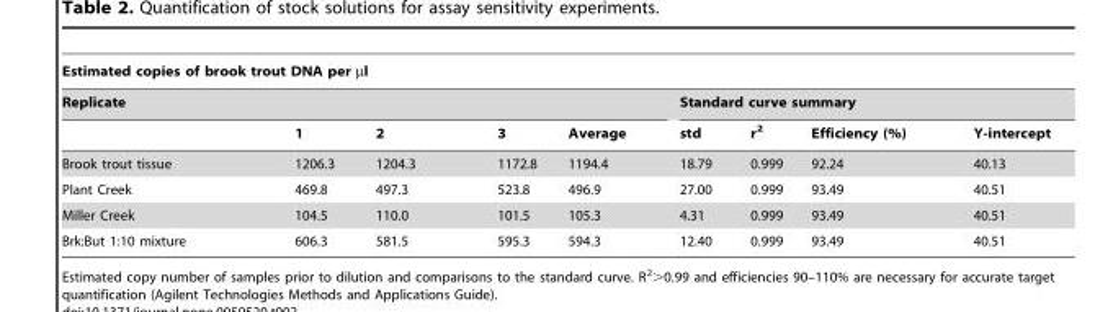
<table><thead><tr><td colspan="9">Estimated copies of brook trout DNA per µl</td></tr><tr><td colspan="5">Replicate</td><td colspan="4">Standard curve summary</td></tr><tr><td></td><td>1</td><td>2</td><td>3</td><td>Average</td><td>std</td><td>r<sup>2</sup></td><td>Efficiency (%)</td><td>Y-intercept</td></tr></thead><tbody><tr><td>Brook trout tissue</td><td>1206.3</td><td>1204.3</td><td>1172.8</td><td>1194.4</td><td>18.79</td><td>0.999</td><td>92.24</td><td>40.13</td></tr><tr><td>Plant Creek</td><td>469.8</td><td>497.3</td><td>523.8</td><td>496.9</td><td>27.00</td><td>0.999</td><td>93.49</td><td>40.51</td></tr><tr><td>Miller Creek</td><td>104.5</td><td>110.0</td><td>101.5</td><td>105.3</td><td>4.31</td><td>0.999</td><td>93.49</td><td>40.51</td></tr><tr><td>Brk:But 1:10 mixture</td><td>606.3</td><td>581.5</td><td>595.3</td><td>594.3</td><td>12.40</td><td>0.999</td><td>93.49</td><td>40.51</td></tr></tbody></table>